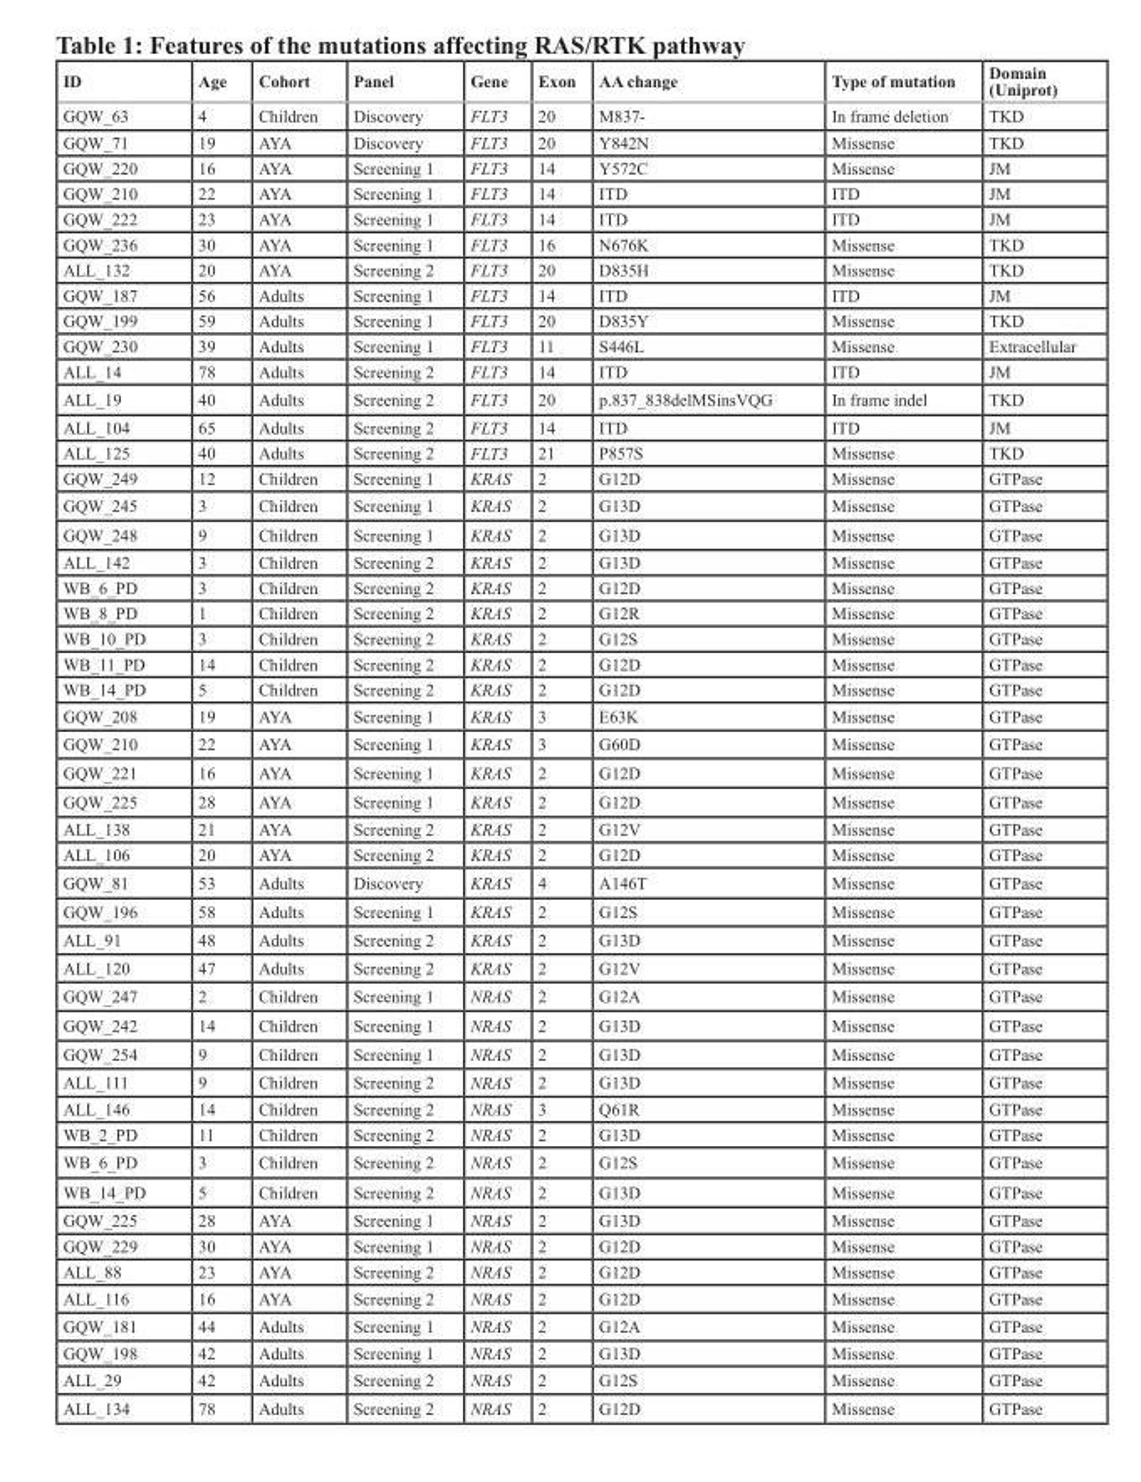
<table><thead><tr><td>ID</td><td>Age</td><td>Cohort</td><td>Panel</td><td>Gene</td><td>Exon</td><td>AA change</td><td>Type of mutation</td><td>Domain (Uniprot)</td></tr></thead><tbody><tr><td>GQW_63</td><td>4</td><td>Children</td><td>Discovery</td><td>FLT3</td><td>20</td><td>M837-</td><td>In frame deletion</td><td>TKD</td></tr><tr><td>GQW_71</td><td>19</td><td>AYA</td><td>Discovery</td><td>FLT3</td><td>20</td><td>Y842N</td><td>Missense</td><td>TKD</td></tr><tr><td>GQW_220</td><td>16</td><td>AYA</td><td>Screening 1</td><td>FLT3</td><td>14</td><td>Y572C</td><td>Missense</td><td>JM</td></tr><tr><td>GQW_210</td><td>22</td><td>AYA</td><td>Screening 1</td><td>FLT3</td><td>14</td><td>ITD</td><td>ITD</td><td>JM</td></tr><tr><td>GQW_222</td><td>23</td><td>AYA</td><td>Screening 1</td><td>FLT3</td><td>14</td><td>ITD</td><td>ITD</td><td>JM</td></tr><tr><td>GQW_236</td><td>30</td><td>AYA</td><td>Screening 1</td><td>FLT3</td><td>16</td><td>N676K</td><td>Missense</td><td>TKD</td></tr><tr><td>ALL_132</td><td>20</td><td>AYA</td><td>Screening 2</td><td>FLT3</td><td>20</td><td>D835H</td><td>Missense</td><td>TKD</td></tr><tr><td>GQW_187</td><td>56</td><td>Adults</td><td>Screening 1</td><td>FLT3</td><td>14</td><td>ITD</td><td>ITD</td><td>JM</td></tr><tr><td>GQW_199</td><td>59</td><td>Adults</td><td>Screening 1</td><td>FLT3</td><td>20</td><td>D835Y</td><td>Missense</td><td>TKD</td></tr><tr><td>GQW_230</td><td>39</td><td>Adults</td><td>Screening 1</td><td>FLT3</td><td>11</td><td>S446L</td><td>Missense</td><td>Extracellular</td></tr><tr><td>ALL_14</td><td>78</td><td>Adults</td><td>Screening 2</td><td>FLT3</td><td>14</td><td>ITD</td><td>ITD</td><td>JM</td></tr><tr><td>ALL_19</td><td>40</td><td>Adults</td><td>Screening 2</td><td>FLT3</td><td>20</td><td>p.837_838delMSinsVQG</td><td>In frame indel</td><td>TKD</td></tr><tr><td>ALL_104</td><td>65</td><td>Adults</td><td>Screening 2</td><td>FLT3</td><td>14</td><td>ITD</td><td>ITD</td><td>JM</td></tr><tr><td>ALL_125</td><td>40</td><td>Adults</td><td>Screening 2</td><td>FLT3</td><td>21</td><td>P857S</td><td>Missense</td><td>TKD</td></tr><tr><td>GQW_249</td><td>12</td><td>Children</td><td>Screening 1</td><td>KRAS</td><td>2</td><td>G12D</td><td>Missense</td><td>GTPase</td></tr><tr><td>GQW_245</td><td>3</td><td>Children</td><td>Screening 1</td><td>KRAS</td><td>2</td><td>G13D</td><td>Missense</td><td>GTPase</td></tr><tr><td>GQW_248</td><td>9</td><td>Children</td><td>Screening 1</td><td>KRAS</td><td>2</td><td>G13D</td><td>Missense</td><td>GTPase</td></tr><tr><td>ALL_142</td><td>3</td><td>Children</td><td>Screening 2</td><td>KRAS</td><td>2</td><td>G13D</td><td>Missense</td><td>GTPase</td></tr><tr><td>WB_6_PD</td><td>3</td><td>Children</td><td>Screening 2</td><td>KRAS</td><td>2</td><td>G12D</td><td>Missense</td><td>GTPase</td></tr><tr><td>WB_8_PD</td><td>1</td><td>Children</td><td>Screening 2</td><td>KRAS</td><td>2</td><td>G12R</td><td>Missense</td><td>GTPase</td></tr><tr><td>WB_10_PD</td><td>3</td><td>Children</td><td>Screening 2</td><td>KRAS</td><td>2</td><td>G12S</td><td>Missense</td><td>GTPase</td></tr><tr><td>WB_11_PD</td><td>14</td><td>Children</td><td>Screening 2</td><td>KRAS</td><td>2</td><td>G12D</td><td>Missense</td><td>GTPase</td></tr><tr><td>WB_14_PD</td><td>5</td><td>Children</td><td>Screening 2</td><td>KRAS</td><td>2</td><td>G12D</td><td>Missense</td><td>GTPase</td></tr><tr><td>GQW_208</td><td>19</td><td>AYA</td><td>Screening 1</td><td>KRAS</td><td>3</td><td>E63K</td><td>Missense</td><td>GTPase</td></tr><tr><td>GQW_210</td><td>22</td><td>AYA</td><td>Screening 1</td><td>KRAS</td><td>3</td><td>G60D</td><td>Missense</td><td>GTPase</td></tr><tr><td>GQW_221</td><td>16</td><td>AYA</td><td>Screening 1</td><td>KRAS</td><td>2</td><td>G12D</td><td>Missense</td><td>GTPase</td></tr><tr><td>GQW_225</td><td>28</td><td>AYA</td><td>Screening 1</td><td>KRAS</td><td>2</td><td>G12D</td><td>Missense</td><td>GTPase</td></tr><tr><td>ALL_138</td><td>21</td><td>AYA</td><td>Screening 2</td><td>KRAS</td><td>2</td><td>G12V</td><td>Missense</td><td>GTPase</td></tr><tr><td>ALL_106</td><td>20</td><td>AYA</td><td>Screening 2</td><td>KRAS</td><td>2</td><td>G12D</td><td>Missense</td><td>GTPase</td></tr><tr><td>GQW_81</td><td>53</td><td>Adults</td><td>Discovery</td><td>KRAS</td><td>4</td><td>A146T</td><td>Missense</td><td>GTPase</td></tr><tr><td>GQW_196</td><td>58</td><td>Adults</td><td>Screening 1</td><td>KRAS</td><td>2</td><td>G12S</td><td>Missense</td><td>GTPase</td></tr><tr><td>ALL_91</td><td>48</td><td>Adults</td><td>Screening 2</td><td>KRAS</td><td>2</td><td>G13D</td><td>Missense</td><td>GTPase</td></tr><tr><td>ALL_120</td><td>47</td><td>Adults</td><td>Screening 2</td><td>KRAS</td><td>2</td><td>G12V</td><td>Missense</td><td>GTPase</td></tr><tr><td>GQW_247</td><td>2</td><td>Children</td><td>Screening 1</td><td>NRAS</td><td>2</td><td>G12A</td><td>Missense</td><td>GTPase</td></tr><tr><td>GQW_242</td><td>14</td><td>Children</td><td>Screening 1</td><td>NRAS</td><td>2</td><td>G13D</td><td>Missense</td><td>GTPase</td></tr><tr><td>GQW_254</td><td>9</td><td>Children</td><td>Screening 1</td><td>NRAS</td><td>2</td><td>G13D</td><td>Missense</td><td>GTPase</td></tr><tr><td>ALL_111</td><td>9</td><td>Children</td><td>Screening 2</td><td>NRAS</td><td>2</td><td>G13D</td><td>Missense</td><td>GTPase</td></tr><tr><td>ALL_146</td><td>14</td><td>Children</td><td>Screening 2</td><td>NRAS</td><td>3</td><td>Q61R</td><td>Missense</td><td>GTPase</td></tr><tr><td>WB_2_PD</td><td>11</td><td>Children</td><td>Screening 2</td><td>NRAS</td><td>2</td><td>G13D</td><td>Missense</td><td>GTPase</td></tr><tr><td>WB_6_PD</td><td>3</td><td>Children</td><td>Screening 2</td><td>NRAS</td><td>2</td><td>G12S</td><td>Missense</td><td>GTPase</td></tr><tr><td>WB_14_PD</td><td>5</td><td>Children</td><td>Screening 2</td><td>NRAS</td><td>2</td><td>G13D</td><td>Missense</td><td>GTPase</td></tr><tr><td>GQW_225</td><td>28</td><td>AYA</td><td>Screening 1</td><td>NRAS</td><td>2</td><td>G13D</td><td>Missense</td><td>GTPase</td></tr><tr><td>GQW_229</td><td>30</td><td>AYA</td><td>Screening 1</td><td>NRAS</td><td>2</td><td>G12D</td><td>Missense</td><td>GTPase</td></tr><tr><td>ALL_88</td><td>23</td><td>AYA</td><td>Screening 2</td><td>NRAS</td><td>2</td><td>G12D</td><td>Missense</td><td>GTPase</td></tr><tr><td>ALL_116</td><td>16</td><td>AYA</td><td>Screening 2</td><td>NRAS</td><td>2</td><td>G12D</td><td>Missense</td><td>GTPase</td></tr><tr><td>GQW_181</td><td>44</td><td>Adults</td><td>Screening 1</td><td>NRAS</td><td>2</td><td>G12A</td><td>Missense</td><td>GTPase</td></tr><tr><td>GQW_198</td><td>42</td><td>Adults</td><td>Screening 1</td><td>NRAS</td><td>2</td><td>G13D</td><td>Missense</td><td>GTPase</td></tr><tr><td>ALL_29</td><td>42</td><td>Adults</td><td>Screening 2</td><td>NRAS</td><td>2</td><td>G12S</td><td>Missense</td><td>GTPase</td></tr><tr><td>ALL_134</td><td>78</td><td>Adults</td><td>Screening 2</td><td>NRAS</td><td>2</td><td>G12D</td><td>Missense</td><td>GTPase</td></tr></tbody></table>